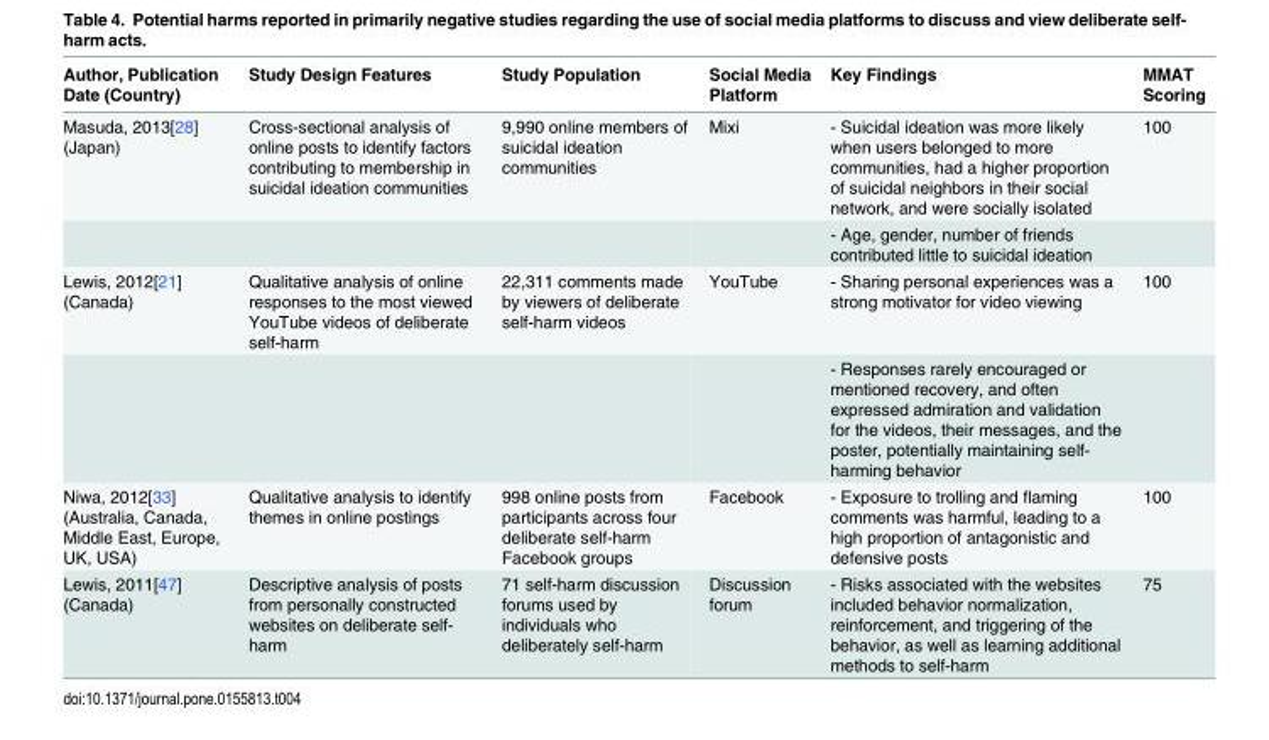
<table><thead><tr><td>Author, Publication Date (Country)</td><td>Study Design Features</td><td>Study Population</td><td>Social Media Platform</td><td>Key Findings</td><td>MMAT Scoring</td></tr></thead><tbody><tr><td rowspan="2">Masuda, 2013[28] (Japan)</td><td>Cross-sectional analysis of online posts to identify factors contributing to membership in suicidal ideation communities</td><td>9,990 online members of suicidal ideation communities</td><td>Mixi</td><td>- Suicidal ideation was more likely when users belonged to more communities, had a higher proportion of suicidal neighbors in their social network, and were socially isolated</td><td>100</td></tr><tr><td></td><td></td><td></td><td>- Age, gender, number of friends contributed little to suicidal ideation</td><td></td></tr><tr><td rowspan="2">Lewis, 2012[21] (Canada)</td><td>Qualitative analysis of online responses to the most viewed YouTube videos of deliberate self-harm</td><td>22,311 comments made by viewers of deliberate self-harm videos</td><td>YouTube</td><td>- Sharing personal experiences was a strong motivator for video viewing</td><td>100</td></tr><tr><td></td><td></td><td></td><td>- Responses rarely encouraged or mentioned recovery, and often expressed admiration and validation for the videos, their messages, and the poster, potentially maintaining self- harming behavior</td><td></td></tr><tr><td>Niwa, 2012[33] (Australia, Canada, Middle East, Europe, UK, USA)</td><td>Qualitative analysis to identify themes in online postings</td><td>998 online posts from participants across four deliberate self-harm Facebook groups</td><td>Facebook</td><td>- Exposure to trolling and flaming comments was harmful, leading to a high proportion of antagonistic and defensive posts</td><td>100</td></tr><tr><td>Lewis, 2011[47] (Canada)</td><td>Descriptive analysis of posts from personally constructed websites on deliberate self- harm</td><td>71 self-harm discussion forums used by individuals who deliberately self-harm</td><td>Discussion forum</td><td>- Risks associated with the websites included behavior normalization, reinforcement, and triggering of the behavior, as well as learning additional methods to self-harm</td><td>75</td></tr></tbody></table>